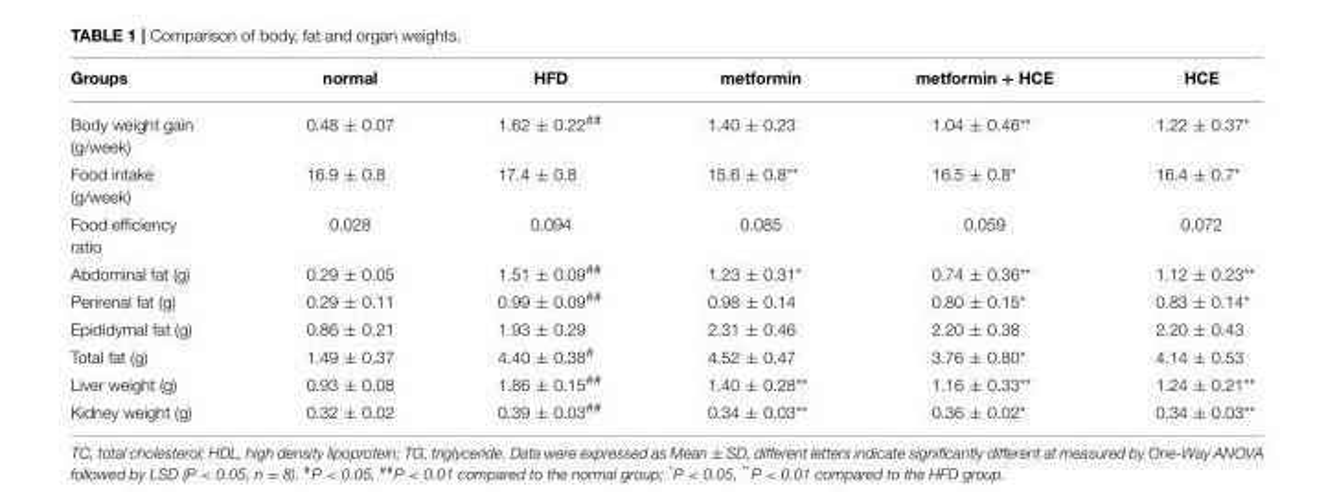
<table><thead><tr><td>Groups</td><td>normal</td><td>HFD</td><td>metformin</td><td>metformin + HCE</td><td>HCE</td></tr></thead><tbody><tr><td>Body weight gain (g/week)</td><td>0.48 ± 0.07</td><td>1.62 ± 0.22<sup>##</sup></td><td>1.40 ± 0.23</td><td>1.04 ± 0.46**</td><td>1.22 ± 0.37*</td></tr><tr><td>Food intake (g/week)</td><td>16.9 ± 0.8</td><td>17.4 ± 0.8</td><td>15.6 ± 0.8**</td><td>16.5 ± 0.8*</td><td>16.4 ± 0.7*</td></tr><tr><td>Food efficiency ratio</td><td>0.028</td><td>0.094</td><td>0.085</td><td>0.059</td><td>0.072</td></tr><tr><td>Abdominal fat (g)</td><td>0.29 ± 0.05</td><td>1.51 ± 0.09<sup>##</sup></td><td>1.23 ± 0.31*</td><td>0.74 ± 0.36**</td><td>1.12 ± 0.23**</td></tr><tr><td>Perirenal fat (g)</td><td>0.29 ± 0.11</td><td>0.99 ± 0.09<sup>##</sup></td><td>0.98 ± 0.14</td><td>0.80 ± 0.15*</td><td>0.83 ± 0.14*</td></tr><tr><td>Epididymal fat (g)</td><td>0.86 ± 0.21</td><td>1.93 ± 0.29</td><td>2.31 ± 0.46</td><td>2.20 ± 0.38</td><td>2.20 ± 0.43</td></tr><tr><td>Total fat (g)</td><td>1.49 ± 0.37</td><td>4.40 ± 0.38<sup>#</sup></td><td>4.52 ± 0.47</td><td>3.76 ± 0.80*</td><td>4.14 ± 0.53</td></tr><tr><td>Liver weight (g)</td><td>0.93 ± 0.08</td><td>1.86 ± 0.15<sup>##</sup></td><td>1.40 ± 0.28**</td><td>1.16 ± 0.33**</td><td>1.24 ± 0.21**</td></tr><tr><td>Kidney weight (g)</td><td>0.32 ± 0.02</td><td>0.39 ± 0.03<sup>##</sup></td><td>0.34 ± 0.03**</td><td>0.36 ± 0.02*</td><td>0.34 ± 0.03**</td></tr></tbody></table>